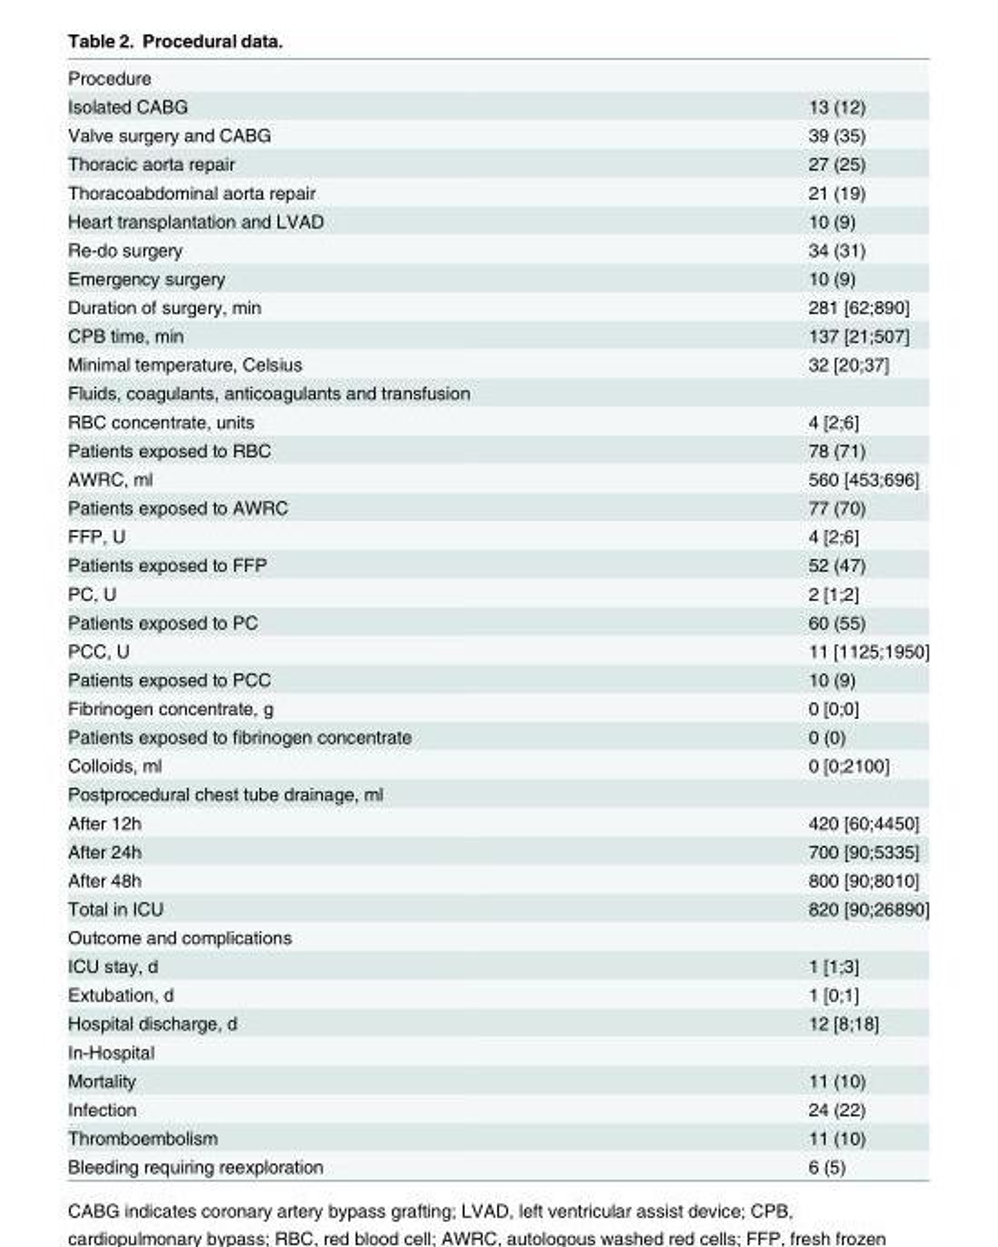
<table><tbody><tr><td colspan="2">Procedure</td></tr><tr><td>Isolated CABG</td><td>13 (12)</td></tr><tr><td>Valve surgery and CABG</td><td>39 (35)</td></tr><tr><td>Thoracic aorta repair</td><td>27 (25)</td></tr><tr><td>Thoracoabdominal aorta repair</td><td>21 (19)</td></tr><tr><td>Heart transplantation and LVAD</td><td>10 (9)</td></tr><tr><td>Re-do surgery</td><td>34 (31)</td></tr><tr><td>Emergency surgery</td><td>10 (9)</td></tr><tr><td>Duration of surgery, min</td><td>281 [62;890]</td></tr><tr><td>CPB time, min</td><td>137 [21;507]</td></tr><tr><td>Minimal temperature, Celsius</td><td>32 [20;37]</td></tr><tr><td colspan="2">Fluids, coagulants, anticoagulants and transfusion</td></tr><tr><td>RBC concentrate, units</td><td>4 [2;6]</td></tr><tr><td>Patients exposed to RBC</td><td>78 (71)</td></tr><tr><td>AWRC, ml</td><td>560 [453;696]</td></tr><tr><td>Patients exposed to AWRC</td><td>77 (70)</td></tr><tr><td>FFP, U</td><td>4 [2;6]</td></tr><tr><td>Patients exposed to FFP</td><td>52 (47)</td></tr><tr><td>PC, U</td><td>2 [1;2]</td></tr><tr><td>Patients exposed to PC</td><td>60 (55)</td></tr><tr><td>PCC, U</td><td>11 [1125;1950]</td></tr><tr><td>Patients exposed to PCC</td><td>10 (9)</td></tr><tr><td>Fibrinogen concentrate, g</td><td>0 [0;0]</td></tr><tr><td>Patients exposed to fibrinogen concentrate</td><td>0 (0)</td></tr><tr><td>Colloids, ml</td><td>0 [0;2100]</td></tr><tr><td colspan="2">Postprocedural chest tube drainage, ml</td></tr><tr><td>After 12h</td><td>420 [60;4450]</td></tr><tr><td>After 24h</td><td>700 [90;5335]</td></tr><tr><td>After 48h</td><td>800 [90;8010]</td></tr><tr><td>Total in ICU</td><td>820 [90;26890]</td></tr><tr><td colspan="2">Outcome and complications</td></tr><tr><td>ICU stay, d</td><td>1 [1;3]</td></tr><tr><td>Extubation, d</td><td>1 [0;1]</td></tr><tr><td>Hospital discharge, d</td><td>12 [8;18]</td></tr><tr><td colspan="2">In-Hospital</td></tr><tr><td>Mortality</td><td>11 (10)</td></tr><tr><td>Infection</td><td>24 (22)</td></tr><tr><td>Thromboembolism</td><td>11 (10)</td></tr><tr><td>Bleeding requiring reexploration</td><td>6 (5)</td></tr></tbody></table>